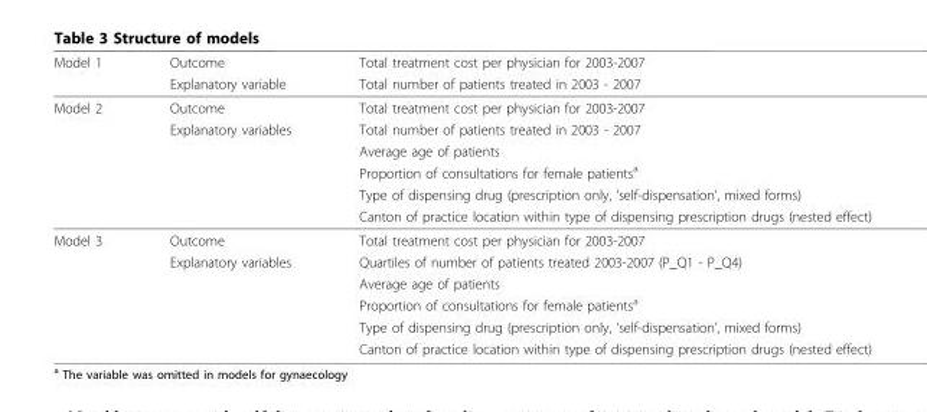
<table><thead><tr><td rowspan="2">Model 1</td><td rowspan="2">Outcome Explanatory variable</td><td rowspan="2">Total treatment cost per physician for 2003-2007 Total number of patients treated in 2003 - 2007</td></tr><tr></tr></thead><tbody><tr><td rowspan="6">Model 2</td><td>Outcome</td><td>Total treatment cost per physician for 2003-2007</td></tr><tr><td>Explanatory variables</td><td>Total number of patients treated in 2003 - 2007</td></tr><tr><td></td><td>Average age of patients</td></tr><tr><td></td><td>Proportion of consultations for female patientsa</td></tr><tr><td></td><td>Type of dispensing drug (prescription only, ‘self-dispensation’, mixed forms)</td></tr><tr><td></td><td>Canton of practice location within type of dispensing prescription drugs (nested effect)</td></tr><tr><td rowspan="6">Model 3</td><td>Outcome</td><td>Total treatment cost per physician for 2003-2007</td></tr><tr><td>Explanatory variables</td><td>Quartiles of number of patients treated 2003-2007 (P_Q1 - P_Q4)</td></tr><tr><td></td><td>Average age of patients</td></tr><tr><td></td><td>Proportion of consultations for female patientsa</td></tr><tr><td></td><td>Type of dispensing drug (prescription only, ‘self-dispensation’, mixed forms)</td></tr><tr><td></td><td>Canton of practice location within type of dispensing prescription drugs (nested effect)</td></tr></tbody></table>